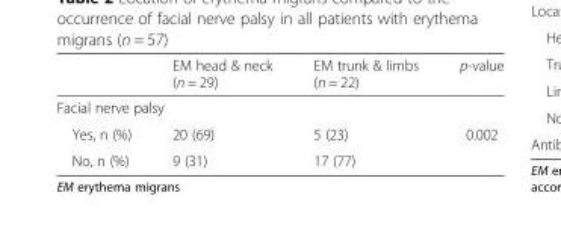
<table><thead><tr><td></td><td>EM head &amp; neck (n = 29)</td><td>EM trunk &amp; limbs (n = 22)</td><td>p-value</td></tr></thead><tbody><tr><td colspan="4">Facial nerve palsy</td></tr><tr><td>Yes, n (%)</td><td>20 (69)</td><td>5 (23)</td><td>0.002</td></tr><tr><td>No, n (%)</td><td>9 (31)</td><td>17 (77)</td><td></td></tr></tbody></table>